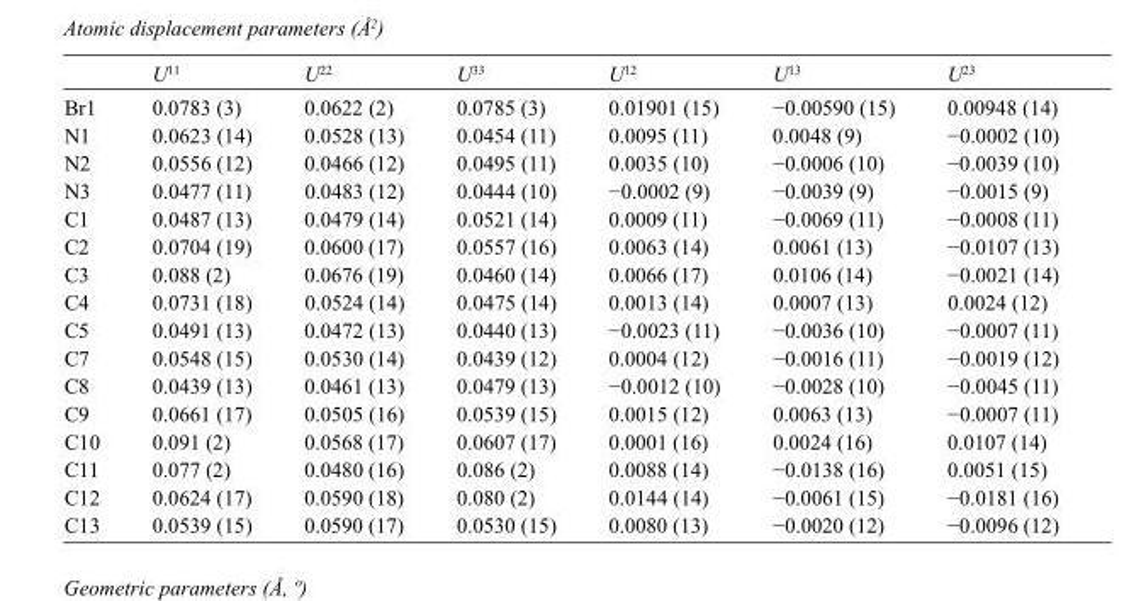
<table><thead><tr><td></td><td>U<sup>11</sup></td><td>U<sup>22</sup></td><td>U<sup>33</sup></td><td>U<sup>12</sup></td><td>U<sup>13</sup></td><td>U<sup>23</sup></td></tr></thead><tbody><tr><td>Br1</td><td>0.0783 (3)</td><td>0.0622 (2)</td><td>0.0785 (3)</td><td>0.01901 (15)</td><td>−0.00590 (15)</td><td>0.00948 (14)</td></tr><tr><td>N1</td><td>0.0623 (14)</td><td>0.0528 (13)</td><td>0.0454 (11)</td><td>0.0095 (11)</td><td>0.0048 (9)</td><td>−0.0002 (10)</td></tr><tr><td>N2</td><td>0.0556 (12)</td><td>0.0466 (12)</td><td>0.0495 (11)</td><td>0.0035 (10)</td><td>−0.0006 (10)</td><td>−0.0039 (10)</td></tr><tr><td>N3</td><td>0.0477 (11)</td><td>0.0483 (12)</td><td>0.0444 (10)</td><td>−0.0002 (9)</td><td>−0.0039 (9)</td><td>−0.0015 (9)</td></tr><tr><td>C1</td><td>0.0487 (13)</td><td>0.0479 (14)</td><td>0.0521 (14)</td><td>0.0009 (11)</td><td>−0.0069 (11)</td><td>−0.0008 (11)</td></tr><tr><td>C2</td><td>0.0704 (19)</td><td>0.0600 (17)</td><td>0.0557 (16)</td><td>0.0063 (14)</td><td>0.0061 (13)</td><td>−0.0107 (13)</td></tr><tr><td>C3</td><td>0.088 (2)</td><td>0.0676 (19)</td><td>0.0460 (14)</td><td>0.0066 (17)</td><td>0.0106 (14)</td><td>−0.0021 (14)</td></tr><tr><td>C4</td><td>0.0731 (18)</td><td>0.0524 (14)</td><td>0.0475 (14)</td><td>0.0013 (14)</td><td>0.0007 (13)</td><td>0.0024 (12)</td></tr><tr><td>C5</td><td>0.0491 (13)</td><td>0.0472 (13)</td><td>0.0440 (13)</td><td>−0.0023 (11)</td><td>−0.0036 (10)</td><td>−0.0007 (11)</td></tr><tr><td>C7</td><td>0.0548 (15)</td><td>0.0530 (14)</td><td>0.0439 (12)</td><td>0.0004 (12)</td><td>−0.0016 (11)</td><td>−0.0019 (12)</td></tr><tr><td>C8</td><td>0.0439 (13)</td><td>0.0461 (13)</td><td>0.0479 (13)</td><td>−0.0012 (10)</td><td>−0.0028 (10)</td><td>−0.0045 (11)</td></tr><tr><td>C9</td><td>0.0661 (17)</td><td>0.0505 (16)</td><td>0.0539 (15)</td><td>0.0015 (12)</td><td>0.0063 (13)</td><td>−0.0007 (11)</td></tr><tr><td>C10</td><td>0.091 (2)</td><td>0.0568 (17)</td><td>0.0607 (17)</td><td>0.0001 (16)</td><td>0.0024 (16)</td><td>0.0107 (14)</td></tr><tr><td>C11</td><td>0.077 (2)</td><td>0.0480 (16)</td><td>0.086 (2)</td><td>0.0088 (14)</td><td>−0.0138 (16)</td><td>0.0051 (15)</td></tr><tr><td>C12</td><td>0.0624 (17)</td><td>0.0590 (18)</td><td>0.080 (2)</td><td>0.0144 (14)</td><td>−0.0061 (15)</td><td>−0.0181 (16)</td></tr><tr><td>C13</td><td>0.0539 (15)</td><td>0.0590 (17)</td><td>0.0530 (15)</td><td>0.0080 (13)</td><td>−0.0020 (12)</td><td>−0.0096 (12)</td></tr></tbody></table>